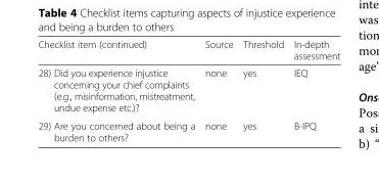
<table><thead><tr><td>Checklist item (continued)</td><td>Source</td><td>Threshold</td><td>In-depth assessment</td></tr></thead><tbody><tr><td>28) Did you experience injustice concerning your chief complaints (e.g., misinformation, mistreatment, undue expense etc.)?</td><td>none</td><td>yes</td><td>IEQ</td></tr><tr><td>29) Are you concerned about being a burden to others?</td><td>none</td><td>yes</td><td>B-IPQ</td></tr></tbody></table>